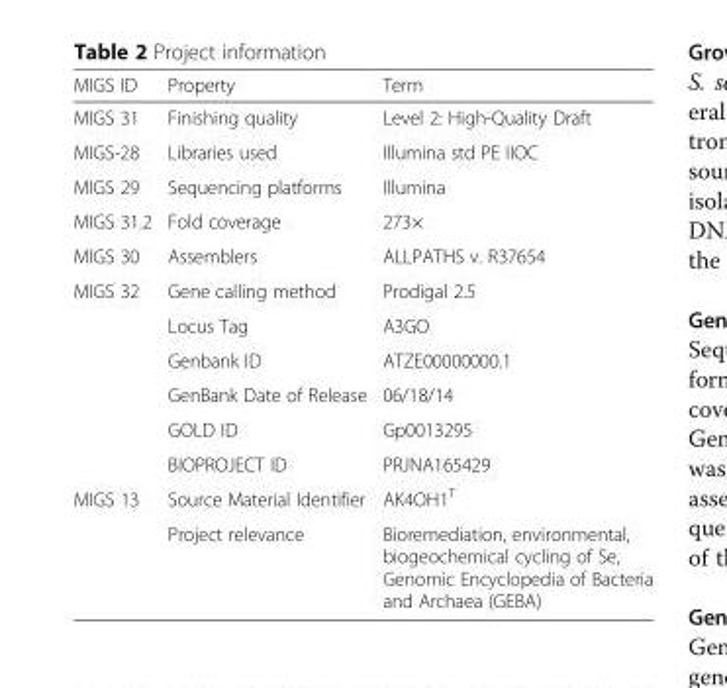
<table><thead><tr><td>MIGS ID</td><td>Property</td><td>Term</td></tr></thead><tbody><tr><td>MIGS 31</td><td>Finishing quality</td><td>Level 2: High-Quality Draft</td></tr><tr><td>MIGS-28</td><td>Libraries used</td><td>Illumina std PE IIOC</td></tr><tr><td>MIGS 29</td><td>Sequencing platforms</td><td>Illumina</td></tr><tr><td>MIGS 31.2</td><td>Fold coverage</td><td>273×</td></tr><tr><td>MIGS 30</td><td>Assemblers</td><td>ALLPATHS v. R37654</td></tr><tr><td rowspan="6">MIGS 32</td><td>Gene calling method</td><td>Prodigal 2.5</td></tr><tr><td>Locus Tag</td><td>A3GO</td></tr><tr><td>Genbank ID</td><td>ATZE00000000.1</td></tr><tr><td>GenBank Date of Release</td><td>06/18/14</td></tr><tr><td>GOLD ID</td><td>Gp0013295</td></tr><tr><td>BIOPROJECT ID</td><td>PRJNA165429</td></tr><tr><td rowspan="2">MIGS 13</td><td>Source Material Identifier</td><td>AK4OH1<sup>T</sup></td></tr><tr><td>Project relevance</td><td>Bioremediation, environmental, biogeochemical cycling of Se, Genomic Encyclopedia of Bacteria and Archaea (GEBA)</td></tr></tbody></table>